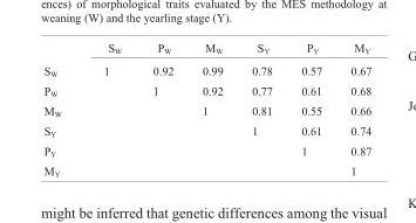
<table><thead><tr><td></td><td>S<sub>W</sub></td><td>P<sub>W</sub></td><td>M<sub>W</sub></td><td>S<sub>Y</sub></td><td>P<sub>Y</sub></td><td>M<sub>Y</sub></td></tr></thead><tbody><tr><td>S<sub>W</sub></td><td>1</td><td>0.92</td><td>0.99</td><td>0.78</td><td>0.57</td><td>0.67</td></tr><tr><td>P<sub>W</sub></td><td></td><td>1</td><td>0.92</td><td>0.77</td><td>0.61</td><td>0.68</td></tr><tr><td>M<sub>W</sub></td><td></td><td></td><td>1</td><td>0.81</td><td>0.55</td><td>0.66</td></tr><tr><td>S<sub>Y</sub></td><td></td><td></td><td></td><td>1</td><td>0.61</td><td>0.74</td></tr><tr><td>P<sub>Y</sub></td><td></td><td></td><td></td><td></td><td>1</td><td>0.87</td></tr><tr><td>M<sub>Y</sub></td><td></td><td></td><td></td><td></td><td></td><td>1</td></tr></tbody></table>